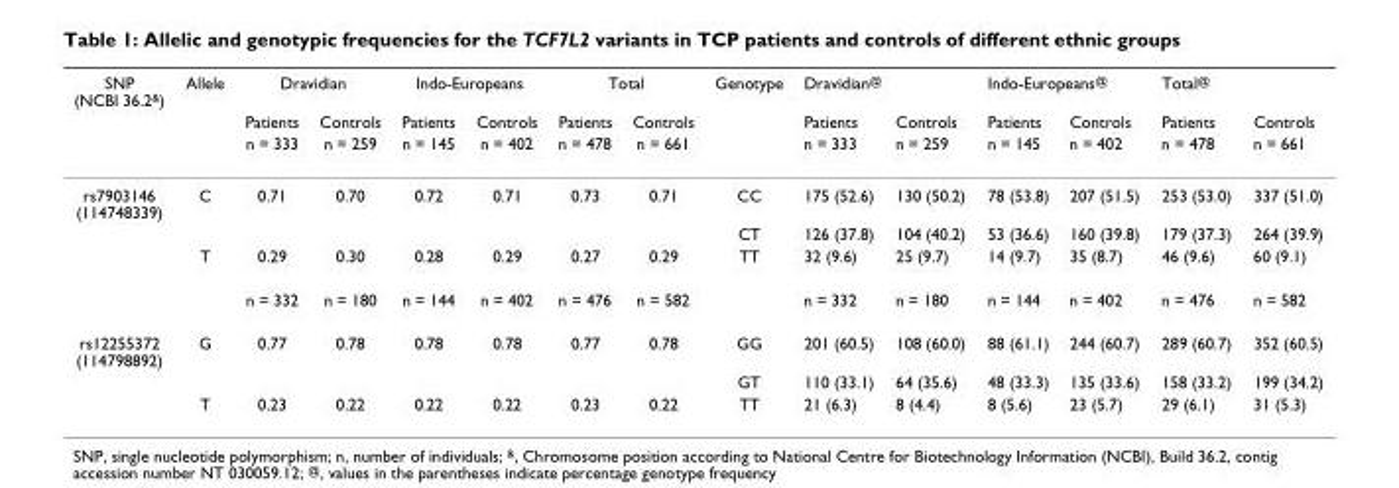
<table><thead><tr><td rowspan="3">SNP (NCBI 36.2<sup>&amp;</sup>)</td><td rowspan="3">Allele</td><td colspan="2">Dravidian</td><td colspan="2">Indo-Europeans</td><td colspan="2">Total</td><td rowspan="3">Genotype</td><td colspan="2">Dravidian<sup>@</sup></td><td colspan="2">Indo-Europeans<sup>@</sup></td><td colspan="2">Total<sup>@</sup></td></tr><tr><td rowspan="2">Patients n = 333</td><td rowspan="2">Controls n = 259</td><td rowspan="2">Patients n = 145</td><td rowspan="2">Controls n = 402</td><td rowspan="2">Patients n = 478</td><td rowspan="2">Controls n = 661</td><td rowspan="2">Patients n = 333</td><td rowspan="2">Controls n = 259</td><td rowspan="2">Patients n = 145</td><td rowspan="2">Controls n = 402</td><td rowspan="2">Patients n = 478</td><td rowspan="2">Controls n = 661</td></tr><tr></tr></thead><tbody><tr><td rowspan="4">rs7903146 (114748339)</td><td>C</td><td>0.71</td><td>0.70</td><td>0.72</td><td>0.71</td><td>0.73</td><td>0.71</td><td>CC</td><td>175 (52.6)</td><td>130 (50.2)</td><td>78 (53.8)</td><td>207 (51.5)</td><td>253 (53.0)</td><td>337 (51.0)</td></tr><tr><td></td><td></td><td></td><td></td><td></td><td></td><td></td><td>CT</td><td>126 (37.8)</td><td>104 (40.2)</td><td>53 (36.6)</td><td>160 (39.8)</td><td>179 (37.3)</td><td>264 (39.9)</td></tr><tr><td>T</td><td>0.29</td><td>0.30</td><td>0.28</td><td>0.29</td><td>0.27</td><td>0.29</td><td>TT</td><td>32 (9.6)</td><td>25 (9.7)</td><td>14 (9.7)</td><td>35 (8.7)</td><td>46 (9.6)</td><td>60 (9.1)</td></tr><tr><td></td><td>n = 332</td><td>n = 180</td><td>n = 144</td><td>n = 402</td><td>n = 476</td><td>n = 582</td><td></td><td>n = 332</td><td>n = 180</td><td>n = 144</td><td>n = 402</td><td>n = 476</td><td>n = 582</td></tr><tr><td rowspan="3">rs12255372 (114798892)</td><td>G</td><td>0.77</td><td>0.78</td><td>0.78</td><td>0.78</td><td>0.77</td><td>0.78</td><td>GG</td><td>201 (60.5)</td><td>108 (60.0)</td><td>88 (61.1)</td><td>244 (60.7)</td><td>289 (60.7)</td><td>352 (60.5)</td></tr><tr><td></td><td></td><td></td><td></td><td></td><td></td><td></td><td>GT</td><td>110 (33.1)</td><td>64 (35.6)</td><td>48 (33.3)</td><td>135 (33.6)</td><td>158 (33.2)</td><td>199 (34.2)</td></tr><tr><td>T</td><td>0.23</td><td>0.22</td><td>0.22</td><td>0.22</td><td>0.23</td><td>0.22</td><td>TT</td><td>21 (6.3)</td><td>8 (4.4)</td><td>8 (5.6)</td><td>23 (5.7)</td><td>29 (6.1)</td><td>31 (5.3)</td></tr></tbody></table>